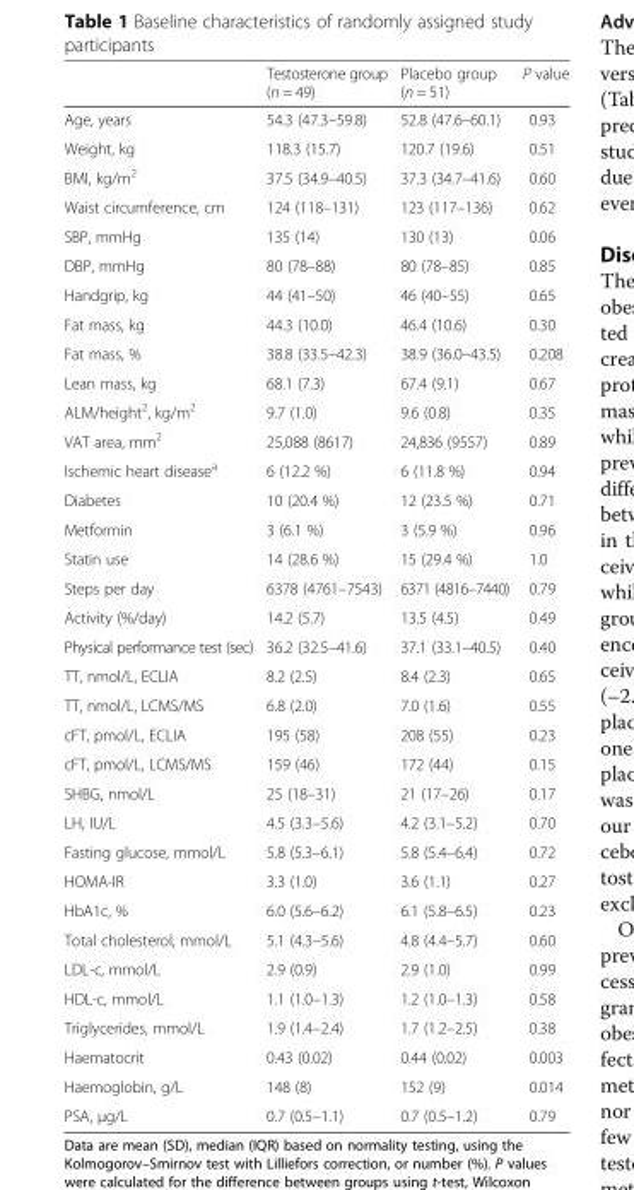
<table><thead><tr><td></td><td>Testosterone group (n = 49)</td><td>Placebo group (n = 51)</td><td>P value</td></tr></thead><tbody><tr><td>Age, years</td><td>54.3 (47.3–59.8)</td><td>52.8 (47.6–60.1)</td><td>0.93</td></tr><tr><td>Weight, kg</td><td>118.3 (15.7)</td><td>120.7 (19.6)</td><td>0.51</td></tr><tr><td>BMI, kg/m<sup>2</sup></td><td>37.5 (34.9–40.5)</td><td>37.3 (34.7–41.6)</td><td>0.60</td></tr><tr><td>Waist circumference, cm</td><td>124 (118–131)</td><td>123 (117–136)</td><td>0.62</td></tr><tr><td>SBP, mmHg</td><td>135 (14)</td><td>130 (13)</td><td>0.06</td></tr><tr><td>DBP, mmHg</td><td>80 (78–88)</td><td>80 (78–85)</td><td>0.85</td></tr><tr><td>Handgrip, kg</td><td>44 (41–50)</td><td>46 (40–55)</td><td>0.65</td></tr><tr><td>Fat mass, kg</td><td>44.3 (10.0)</td><td>46.4 (10.6)</td><td>0.30</td></tr><tr><td>Fat mass, %</td><td>38.8 (33.5–42.3)</td><td>38.9 (36.0–43.5)</td><td>0.208</td></tr><tr><td>Lean mass, kg</td><td>68.1 (7.3)</td><td>67.4 (9.1)</td><td>0.67</td></tr><tr><td>ALM/height<sup>2</sup>, kg/m<sup>2</sup></td><td>9.7 (1.0)</td><td>9.6 (0.8)</td><td>0.35</td></tr><tr><td>VAT area, mm<sup>2</sup></td><td>25,088 (8617)</td><td>24,836 (9557)</td><td>0.89</td></tr><tr><td>Ischemic heart disease<sup>a</sup></td><td>6 (12.2 %)</td><td>6 (11.8 %)</td><td>0.94</td></tr><tr><td>Diabetes</td><td>10 (20.4 %)</td><td>12 (23.5 %)</td><td>0.71</td></tr><tr><td>Metformin</td><td>3 (6.1 %)</td><td>3 (5.9 %)</td><td>0.96</td></tr><tr><td>Statin use</td><td>14 (28.6 %)</td><td>15 (29.4 %)</td><td>1.0</td></tr><tr><td>Steps per day</td><td>6378 (4761–7543)</td><td>6371 (4816–7440)</td><td>0.79</td></tr><tr><td>Activity (%/day)</td><td>14.2 (5.7)</td><td>13.5 (4.5)</td><td>0.49</td></tr><tr><td>Physical performance test (sec)</td><td>36.2 (32.5–41.6)</td><td>37.1 (33.1–40.5)</td><td>0.40</td></tr><tr><td>TT, nmol/L, ECLIA</td><td>8.2 (2.5)</td><td>8.4 (2.3)</td><td>0.65</td></tr><tr><td>TT, nmol/L, LCMS/MS</td><td>6.8 (2.0)</td><td>7.0 (1.6)</td><td>0.55</td></tr><tr><td>cFT, pmol/L, ECLIA</td><td>195 (58)</td><td>208 (55)</td><td>0.23</td></tr><tr><td>cFT, pmol/L, LCMS/MS</td><td>159 (46)</td><td>172 (44)</td><td>0.15</td></tr><tr><td>SHBG, nmol/L</td><td>25 (18–31)</td><td>21 (17–26)</td><td>0.17</td></tr><tr><td>LH, IU/L</td><td>4.5 (3.3–5.6)</td><td>4.2 (3.1–5.2)</td><td>0.70</td></tr><tr><td>Fasting glucose, mmol/L</td><td>5.8 (5.3–6.1)</td><td>5.8 (5.4–6.4)</td><td>0.72</td></tr><tr><td>HOMA-IR</td><td>3.3 (1.0)</td><td>3.6 (1.1)</td><td>0.27</td></tr><tr><td>HbA1c, %</td><td>6.0 (5.6–6.2)</td><td>6.1 (5.8–6.5)</td><td>0.23</td></tr><tr><td>Total cholesterol, mmol/L</td><td>5.1 (4.3–5.6)</td><td>4.8 (4.4–5.7)</td><td>0.60</td></tr><tr><td>LDL-c, mmol/L</td><td>2.9 (0.9)</td><td>2.9 (1.0)</td><td>0.99</td></tr><tr><td>HDL-c, mmol/L</td><td>1.1 (1.0–1.3)</td><td>1.2 (1.0–1.3)</td><td>0.58</td></tr><tr><td>Triglycerides, mmol/L</td><td>1.9 (1.4–2.4)</td><td>1.7 (1.2–2.5)</td><td>0.38</td></tr><tr><td>Haematocrit</td><td>0.43 (0.02)</td><td>0.44 (0.02)</td><td>0.003</td></tr><tr><td>Haemoglobin, g/L</td><td>148 (8)</td><td>152 (9)</td><td>0.014</td></tr><tr><td>PSA, μg/L</td><td>0.7 (0.5–1.1)</td><td>0.7 (0.5–1.2)</td><td>0.79</td></tr></tbody></table>